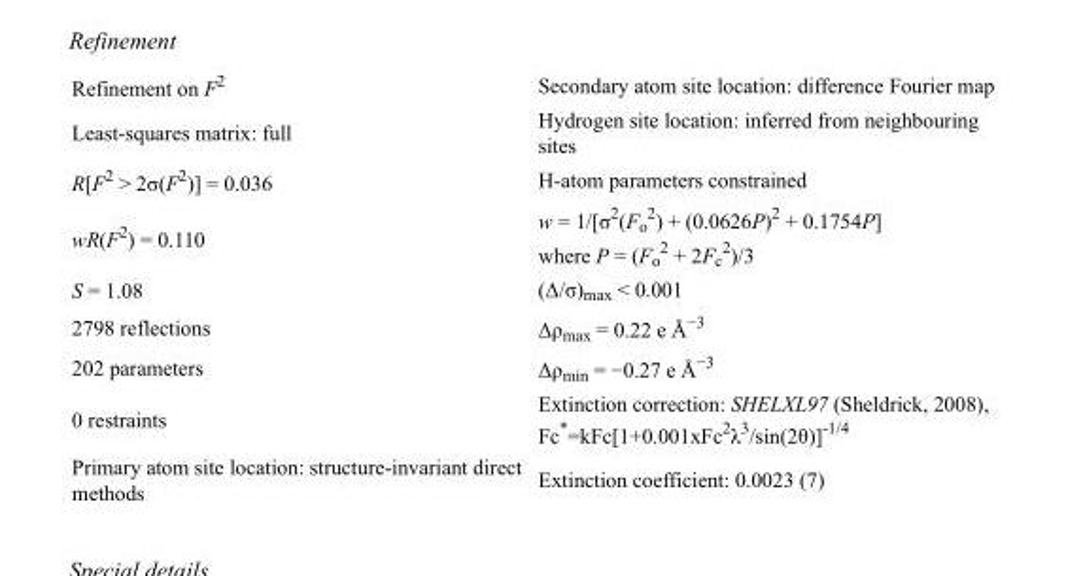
<table><tbody><tr><td>Refinement on F<sup>2</sup></td><td>Secondary atom site location: difference Fourier map</td></tr><tr><td>Least-squares matrix: full</td><td>Hydrogen site location: inferred from neighbouring sites</td></tr><tr><td>R[F<sup>2</sup> &gt; 2σ(F<sup>2</sup>)] = 0.036</td><td>H-atom parameters constrained</td></tr><tr><td>wR(F<sup>2</sup>) = 0.110</td><td>w = 1/[σ<sup>2</sup>(F<sub>o</sub> <sup>2</sup>) + (0.0626P)<sup>2</sup> + 0.1754P] where P = (F<sub>o</sub> <sup>2</sup> + 2F<sub>c</sub> <sup>2</sup>)/3</td></tr><tr><td>S = 1.08</td><td>(Δ/σ)<sub>max</sub> &lt; 0.001</td></tr><tr><td>2798 reflections</td><td>Δρ<sub>max</sub> = 0.22 e Å<sup>−3</sup></td></tr><tr><td>202 parameters</td><td>Δρ<sub>min</sub> = −0.27 e Å<sup>−3</sup></td></tr><tr><td>0 restraints</td><td>Extinction correction: SHELXL97 (Sheldrick, 2008), Fc*=kFc[1+0.001xFc<sup>2</sup>λ<sup>3</sup>/sin(2θ)]<sup>-1/4</sup></td></tr><tr><td>Primary atom site location: structure-invariant direct methods</td><td>Extinction coefficient: 0.0023 (7)</td></tr></tbody></table>